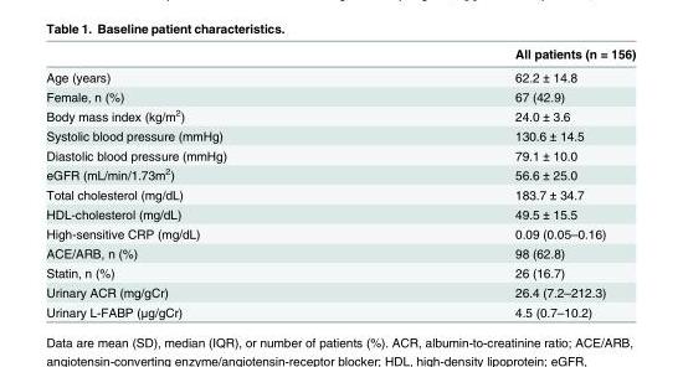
<table><thead><tr><td></td><td>All patients (n = 156)</td></tr></thead><tbody><tr><td>Age (years)</td><td>62.2 ± 14.8</td></tr><tr><td>Female, n (%)</td><td>67 (42.9)</td></tr><tr><td>Body mass index (kg/m<sup>2</sup>)</td><td>24.0 ± 3.6</td></tr><tr><td>Systolic blood pressure (mmHg)</td><td>130.6 ± 14.5</td></tr><tr><td>Diastolic blood pressure (mmHg)</td><td>79.1 ± 10.0</td></tr><tr><td>eGFR (mL/min/1.73m<sup>2</sup>)</td><td>56.6 ± 25.0</td></tr><tr><td>Total cholesterol (mg/dL)</td><td>183.7 ± 34.7</td></tr><tr><td>HDL-cholesterol (mg/dL)</td><td>49.5 ± 15.5</td></tr><tr><td>High-sensitive CRP (mg/dL)</td><td>0.09 (0.05–0.16)</td></tr><tr><td>ACE/ARB, n (%)</td><td>98 (62.8)</td></tr><tr><td>Statin, n (%)</td><td>26 (16.7)</td></tr><tr><td>Urinary ACR (mg/gCr)</td><td>26.4 (7.2–212.3)</td></tr><tr><td>Urinary L-FABP (μg/gCr)</td><td>4.5 (0.7–10.2)</td></tr></tbody></table>